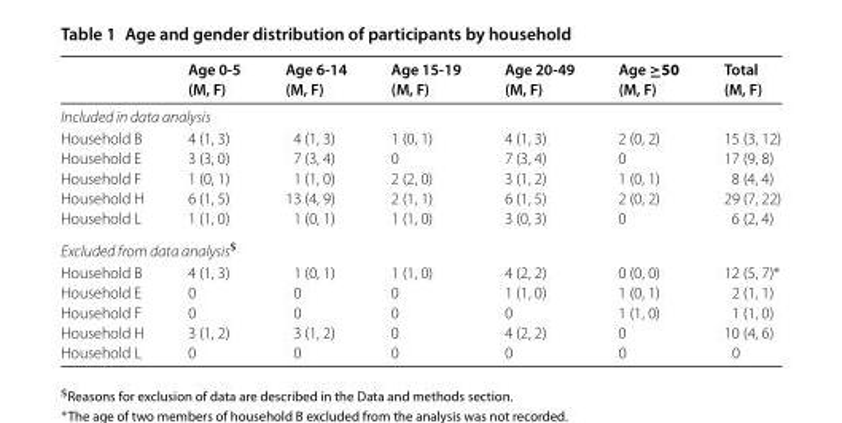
<table><thead><tr><td></td><td>Age 0-5 (M, F)</td><td>Age 6-14 (M, F)</td><td>Age 15-19 (M, F)</td><td>Age 20-49 (M, F)</td><td>Age ≥50 (M, F)</td><td>Total (M, F)</td></tr></thead><tbody><tr><td colspan="7">Included in data analysis</td></tr><tr><td>Household B</td><td>4 (1, 3)</td><td>4 (1, 3)</td><td>1 (0, 1)</td><td>4 (1, 3)</td><td>2 (0, 2)</td><td>15 (3, 12)</td></tr><tr><td>Household E</td><td>3 (3, 0)</td><td>7 (3, 4)</td><td>0</td><td>7 (3, 4)</td><td>0</td><td>17 (9, 8)</td></tr><tr><td>Household F</td><td>1 (0, 1)</td><td>1 (1, 0)</td><td>2 (2, 0)</td><td>3 (1, 2)</td><td>1 (0, 1)</td><td>8 (4, 4)</td></tr><tr><td>Household H</td><td>6 (1, 5)</td><td>13 (4, 9)</td><td>2 (1, 1)</td><td>6 (1, 5)</td><td>2 (0, 2)</td><td>29 (7, 22)</td></tr><tr><td>Household L</td><td>1 (1, 0)</td><td>1 (0, 1)</td><td>1 (1, 0)</td><td>3 (0, 3)</td><td>0</td><td>6 (2, 4)</td></tr><tr><td colspan="7">Excluded from data analysis<sup>$</sup></td></tr><tr><td>Household B</td><td>4 (1, 3)</td><td>1 (0, 1)</td><td>1 (1, 0)</td><td>4 (2, 2)</td><td>0 (0, 0)</td><td>12 (5, 7)∗</td></tr><tr><td>Household E</td><td>0</td><td>0</td><td>0</td><td>1 (1, 0)</td><td>1 (0, 1)</td><td>2 (1, 1)</td></tr><tr><td>Household F</td><td>0</td><td>0</td><td>0</td><td>0</td><td>1 (1, 0)</td><td>1 (1, 0)</td></tr><tr><td>Household H</td><td>3 (1, 2)</td><td>3 (1, 2)</td><td>0</td><td>4 (2, 2)</td><td>0</td><td>10 (4, 6)</td></tr><tr><td>Household L</td><td>0</td><td>0</td><td>0</td><td>0</td><td>0</td><td>0</td></tr></tbody></table>